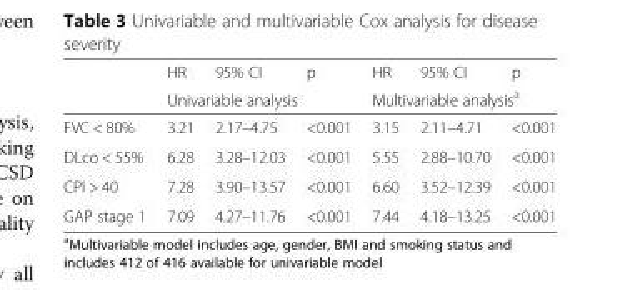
<table><thead><tr><td rowspan="2"></td><td>HR</td><td>95% CI</td><td>p</td><td>HR</td><td>95% CI</td><td>p</td></tr><tr><td colspan="3">Univariable analysis</td><td colspan="3">Multivariable analysis<sup>a</sup></td></tr></thead><tbody><tr><td>FVC &lt; 80%</td><td>3.21</td><td>2.17–4.75</td><td>&lt;0.001</td><td>3.15</td><td>2.11–4.71</td><td>&lt;0.001</td></tr><tr><td>DLco &lt; 55%</td><td>6.28</td><td>3.28–12.03</td><td>&lt;0.001</td><td>5.55</td><td>2.88–10.70</td><td>&lt;0.001</td></tr><tr><td>CPI &gt; 40</td><td>7.28</td><td>3.90–13.57</td><td>&lt;0.001</td><td>6.60</td><td>3.52–12.39</td><td>&lt;0.001</td></tr><tr><td>GAP stage 1</td><td>7.09</td><td>4.27–11.76</td><td>&lt;0.001</td><td>7.44</td><td>4.18–13.25</td><td>&lt;0.001</td></tr></tbody></table>